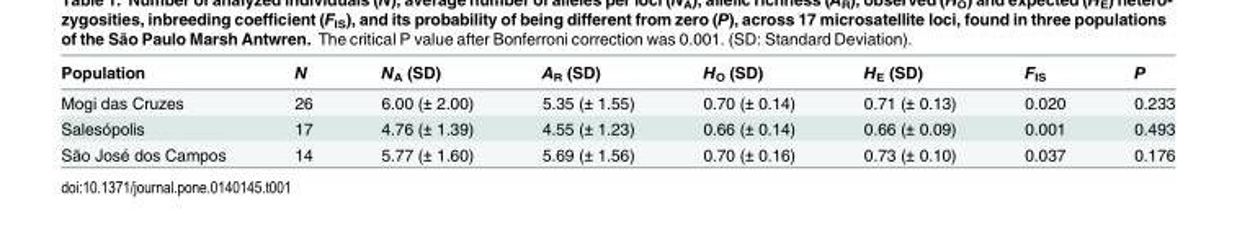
<table><thead><tr><td>Population</td><td>N</td><td>N<sub>A</sub> (SD)</td><td>A<sub>R</sub> (SD)</td><td>H<sub>O</sub> (SD)</td><td>H<sub>E</sub> (SD)</td><td>F<sub>IS</sub></td><td>P</td></tr></thead><tbody><tr><td>Mogi das Cruzes</td><td>26</td><td>6.00 (± 2.00)</td><td>5.35 (± 1.55)</td><td>0.70 (± 0.14)</td><td>0.71 (± 0.13)</td><td>0.020</td><td>0.233</td></tr><tr><td>Salesópolis</td><td>17</td><td>4.76 (± 1.39)</td><td>4.55 (± 1.23)</td><td>0.66 (± 0.14)</td><td>0.66 (± 0.09)</td><td>0.001</td><td>0.493</td></tr><tr><td>São José dos Campos</td><td>14</td><td>5.77 (± 1.60)</td><td>5.69 (± 1.56)</td><td>0.70 (± 0.16)</td><td>0.73 (± 0.10)</td><td>0.037</td><td>0.176</td></tr></tbody></table>